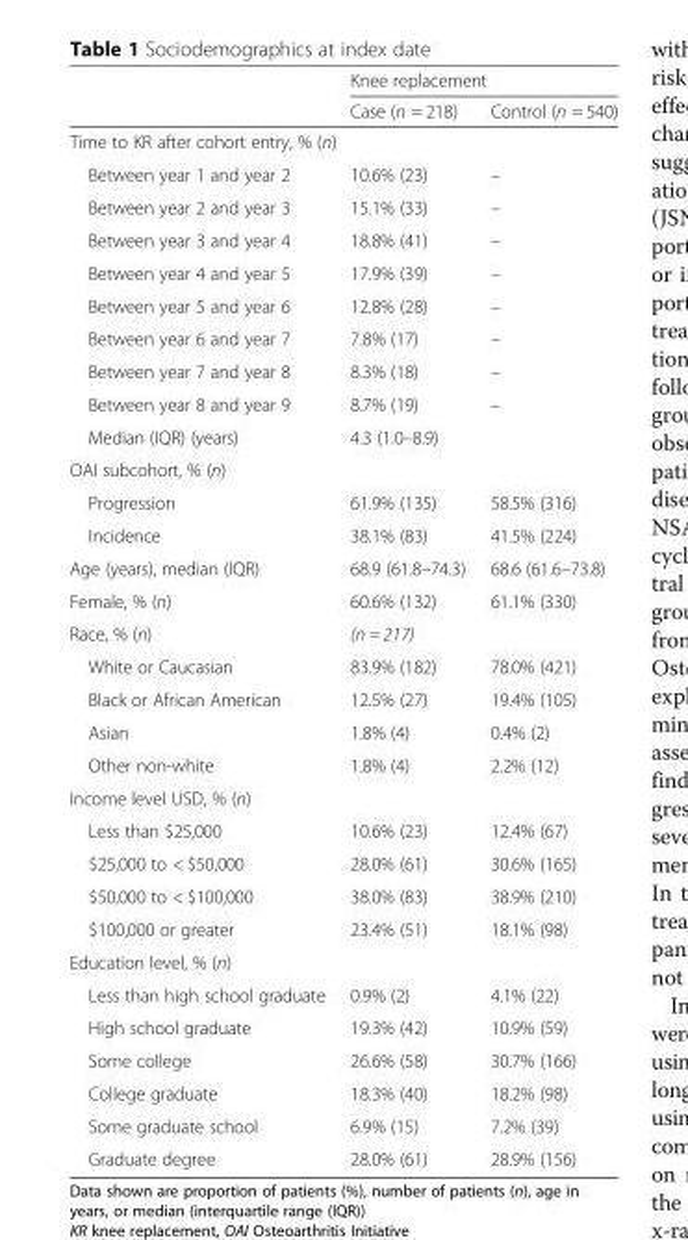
<table><thead><tr><td rowspan="2"></td><td colspan="2">Knee replacement</td></tr><tr><td>Case (n = 218)</td><td>Control (n = 540)</td></tr></thead><tbody><tr><td colspan="3">Time to KR after cohort entry, % (n)</td></tr><tr><td>Between year 1 and year 2</td><td>10.6% (23)</td><td>–</td></tr><tr><td>Between year 2 and year 3</td><td>15.1% (33)</td><td>–</td></tr><tr><td>Between year 3 and year 4</td><td>18.8% (41)</td><td>–</td></tr><tr><td>Between year 4 and year 5</td><td>17.9% (39)</td><td>–</td></tr><tr><td>Between year 5 and year 6</td><td>12.8% (28)</td><td>–</td></tr><tr><td>Between year 6 and year 7</td><td>7.8% (17)</td><td>–</td></tr><tr><td>Between year 7 and year 8</td><td>8.3% (18)</td><td>–</td></tr><tr><td>Between year 8 and year 9</td><td>8.7% (19)</td><td>–</td></tr><tr><td>Median (IQR) (years)</td><td>4.3 (1.0–8.9)</td><td></td></tr><tr><td colspan="3">OAI subcohort, % (n)</td></tr><tr><td>Progression</td><td>61.9% (135)</td><td>58.5% (316)</td></tr><tr><td>Incidence</td><td>38.1% (83)</td><td>41.5% (224)</td></tr><tr><td>Age (years), median (IQR)</td><td>68.9 (61.8–74.3)</td><td>68.6 (61.6–73.8)</td></tr><tr><td>Female, % (n)</td><td>60.6% (132)</td><td>61.1% (330)</td></tr><tr><td>Race, % (n)</td><td>(n = 217)</td><td></td></tr><tr><td>White or Caucasian</td><td>83.9% (182)</td><td>78.0% (421)</td></tr><tr><td>Black or African American</td><td>12.5% (27)</td><td>19.4% (105)</td></tr><tr><td>Asian</td><td>1.8% (4)</td><td>0.4% (2)</td></tr><tr><td>Other non-white</td><td>1.8% (4)</td><td>2.2% (12)</td></tr><tr><td colspan="3">Income level USD, % (n)</td></tr><tr><td>Less than $25,000</td><td>10.6% (23)</td><td>12.4% (67)</td></tr><tr><td>$25,000 to &lt; $50,000</td><td>28.0% (61)</td><td>30.6% (165)</td></tr><tr><td>$50,000 to &lt; $100,000</td><td>38.0% (83)</td><td>38.9% (210)</td></tr><tr><td>$100,000 or greater</td><td>23.4% (51)</td><td>18.1% (98)</td></tr><tr><td colspan="3">Education level, % (n)</td></tr><tr><td>Less than high school graduate</td><td>0.9% (2)</td><td>4.1% (22)</td></tr><tr><td>High school graduate</td><td>19.3% (42)</td><td>10.9% (59)</td></tr><tr><td>Some college</td><td>26.6% (58)</td><td>30.7% (166)</td></tr><tr><td>College graduate</td><td>18.3% (40)</td><td>18.2% (98)</td></tr><tr><td>Some graduate school</td><td>6.9% (15)</td><td>7.2% (39)</td></tr><tr><td>Graduate degree</td><td>28.0% (61)</td><td>28.9% (156)</td></tr></tbody></table>